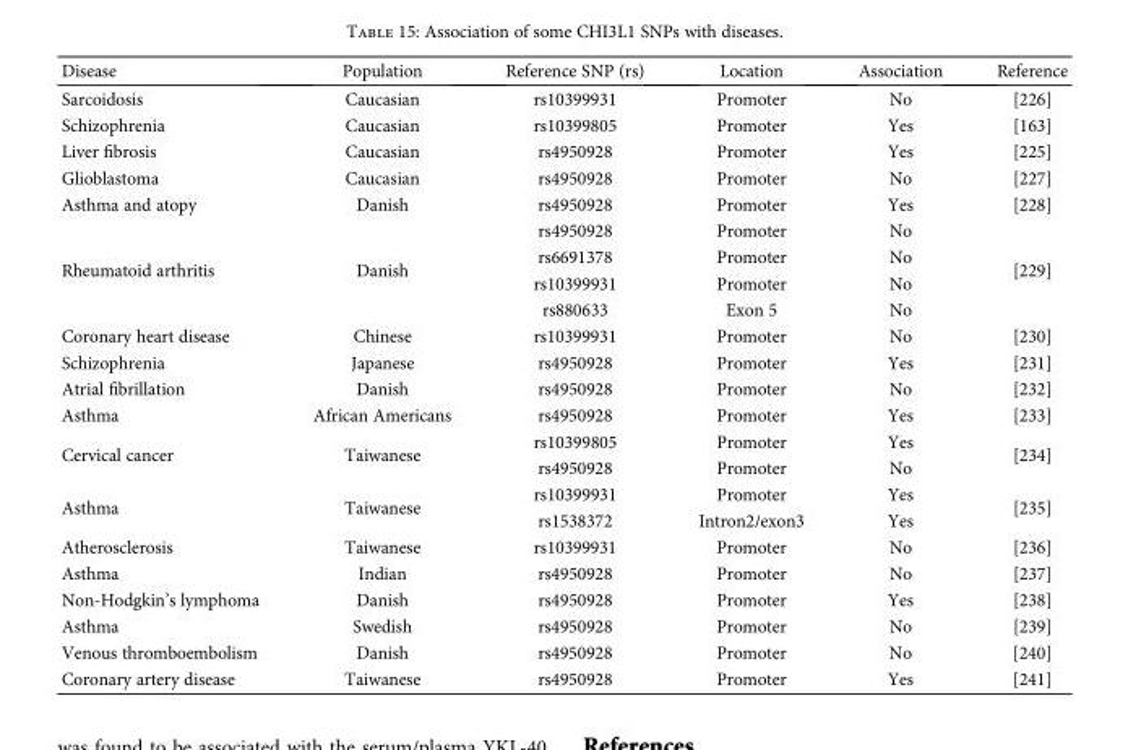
<table><thead><tr><td>Disease</td><td>Population</td><td>Reference SNP (rs)</td><td>Location</td><td>Association</td><td>Reference</td></tr></thead><tbody><tr><td>Sarcoidosis</td><td>Caucasian</td><td>rs10399931</td><td>Promoter</td><td>No</td><td>[226]</td></tr><tr><td>Schizophrenia</td><td>Caucasian</td><td>rs10399805</td><td>Promoter</td><td>Yes</td><td>[163]</td></tr><tr><td>Liver fibrosis</td><td>Caucasian</td><td>rs4950928</td><td>Promoter</td><td>Yes</td><td>[225]</td></tr><tr><td>Glioblastoma</td><td>Caucasian</td><td>rs4950928</td><td>Promoter</td><td>No</td><td>[227]</td></tr><tr><td>Asthma and atopy</td><td>Danish</td><td>rs4950928</td><td>Promoter</td><td>Yes</td><td>[228]</td></tr><tr><td rowspan="4">Rheumatoid arthritis</td><td rowspan="4">Danish</td><td>rs4950928</td><td>Promoter</td><td>No</td><td rowspan="4">[229]</td></tr><tr><td>rs6691378</td><td>Promoter</td><td>No</td></tr><tr><td>rs10399931</td><td>Promoter</td><td>No</td></tr><tr><td>rs880633</td><td>Exon 5</td><td>No</td></tr><tr><td>Coronary heart disease</td><td>Chinese</td><td>rs10399931</td><td>Promoter</td><td>No</td><td>[230]</td></tr><tr><td>Schizophrenia</td><td>Japanese</td><td>rs4950928</td><td>Promoter</td><td>Yes</td><td>[231]</td></tr><tr><td>Atrial fibrillation</td><td>Danish</td><td>rs4950928</td><td>Promoter</td><td>No</td><td>[232]</td></tr><tr><td>Asthma</td><td>African Americans</td><td>rs4950928</td><td>Promoter</td><td>Yes</td><td>[233]</td></tr><tr><td rowspan="2">Cervical cancer</td><td rowspan="2">Taiwanese</td><td>rs10399805</td><td>Promoter</td><td>Yes</td><td rowspan="2">[234]</td></tr><tr><td>rs4950928</td><td>Promoter</td><td>No</td></tr><tr><td rowspan="2">Asthma</td><td rowspan="2">Taiwanese</td><td>rs10399931</td><td>Promoter</td><td>Yes</td><td rowspan="2">[235]</td></tr><tr><td>rs1538372</td><td>Intron2/exon3</td><td>Yes</td></tr><tr><td>Atherosclerosis</td><td>Taiwanese</td><td>rs10399931</td><td>Promoter</td><td>No</td><td>[236]</td></tr><tr><td>Asthma</td><td>Indian</td><td>rs4950928</td><td>Promoter</td><td>No</td><td>[237]</td></tr><tr><td>Non-Hodgkin’s lymphoma</td><td>Danish</td><td>rs4950928</td><td>Promoter</td><td>Yes</td><td>[238]</td></tr><tr><td>Asthma</td><td>Swedish</td><td>rs4950928</td><td>Promoter</td><td>No</td><td>[239]</td></tr><tr><td>Venous thromboembolism</td><td>Danish</td><td>rs4950928</td><td>Promoter</td><td>No</td><td>[240]</td></tr><tr><td>Coronary artery disease</td><td>Taiwanese</td><td>rs4950928</td><td>Promoter</td><td>Yes</td><td>[241]</td></tr></tbody></table>